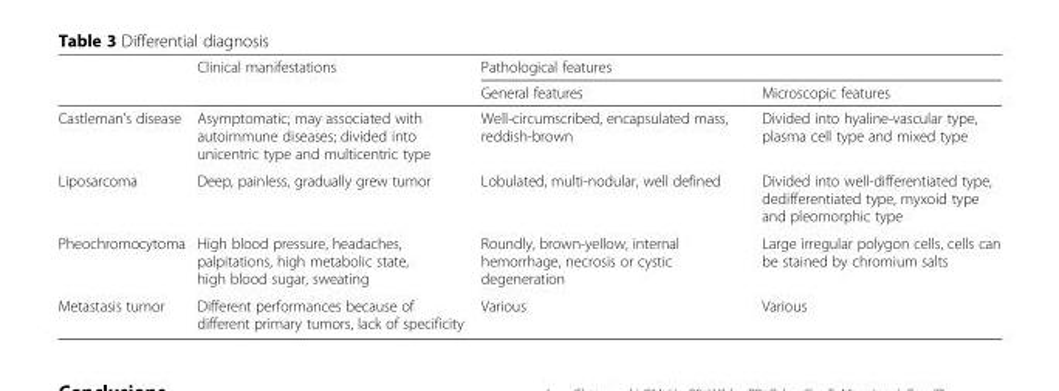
<table><thead><tr><td rowspan="2"></td><td rowspan="2">Clinical manifestations</td><td colspan="2">Pathological features</td></tr><tr><td>General features</td><td>Microscopic features</td></tr></thead><tbody><tr><td>Castleman’s disease</td><td>Asymptomatic; may associated with autoimmune diseases; divided into unicentric type and multicentric type</td><td>Well-circumscribed, encapsulated mass, reddish-brown</td><td>Divided into hyaline-vascular type, plasma cell type and mixed type</td></tr><tr><td>Liposarcoma</td><td>Deep, painless, gradually grew tumor</td><td>Lobulated, multi-nodular, well defined</td><td>Divided into well-differentiated type, dedifferentiated type, myxoid type and pleomorphic type</td></tr><tr><td>Pheochromocytoma</td><td>High blood pressure, headaches, palpitations, high metabolic state, high blood sugar, sweating</td><td>Roundly, brown-yellow, internal hemorrhage, necrosis or cystic degeneration</td><td>Large irregular polygon cells, cells can be stained by chromium salts</td></tr><tr><td>Metastasis tumor</td><td>Different performances because of different primary tumors, lack of specificity</td><td>Various</td><td>Various</td></tr></tbody></table>